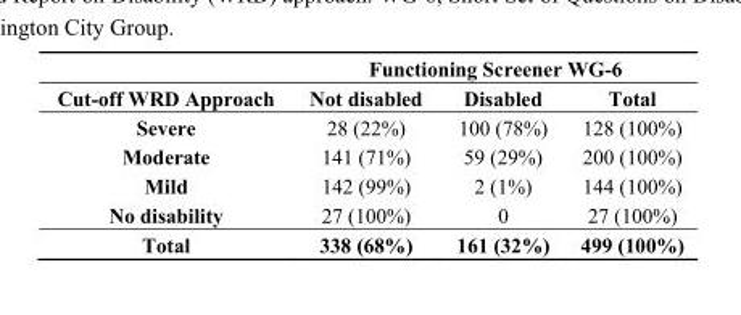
<table><thead><tr><td rowspan="2">Cut-off WRD Approach</td><td colspan="3">Functioning Screener WG-6</td></tr><tr><td>Not disabled</td><td>Disabled</td><td>Total</td></tr></thead><tbody><tr><td>Severe</td><td>28 (22%)</td><td>100 (78%)</td><td>128 (100%)</td></tr><tr><td>Moderate</td><td>141 (71%)</td><td>59 (29%)</td><td>200 (100%)</td></tr><tr><td>Mild</td><td>142 (99%)</td><td>2 (1%)</td><td>144 (100%)</td></tr><tr><td>No disability</td><td>27 (100%)</td><td>0</td><td>27 (100%)</td></tr><tr><td>Total</td><td>338 (68%)</td><td>161 (32%)</td><td>499 (100%)</td></tr></tbody></table>